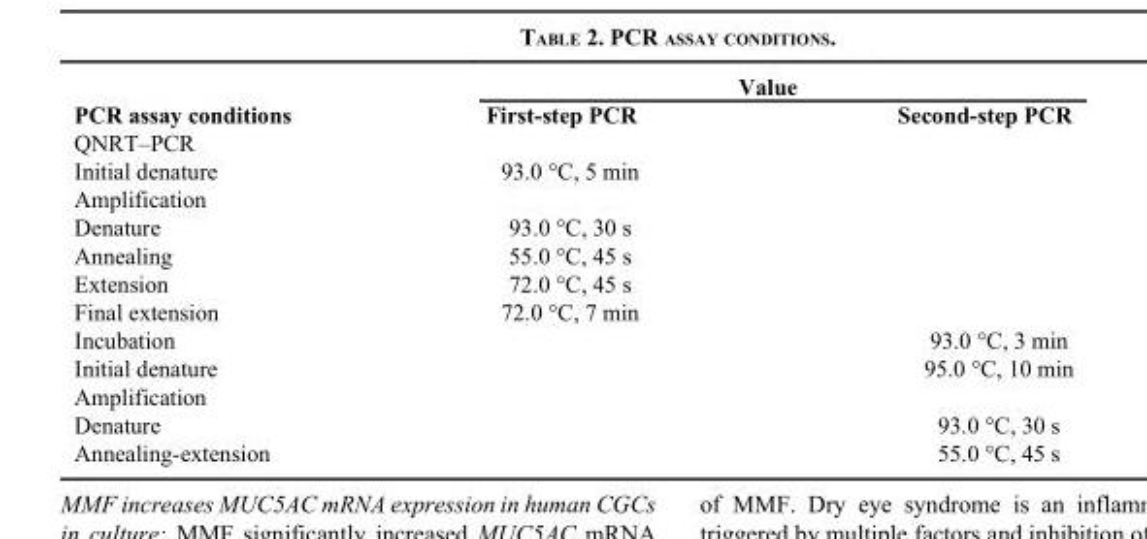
<table><thead><tr><td rowspan="2">PCR assay conditions</td><td colspan="2">Value</td></tr><tr><td>First-step PCR</td><td>Second-step PCR</td></tr></thead><tbody><tr><td colspan="3">QNRT–PCR</td></tr><tr><td>Initial denature</td><td>93.0 °C, 5 min</td><td></td></tr><tr><td colspan="3">Amplification</td></tr><tr><td>Denature</td><td>93.0 °C, 30 s</td><td></td></tr><tr><td>Annealing</td><td>55.0 °C, 45 s</td><td></td></tr><tr><td>Extension</td><td>72.0 °C, 45 s</td><td></td></tr><tr><td>Final extension</td><td>72.0 °C, 7 min</td><td></td></tr><tr><td>Incubation</td><td></td><td>93.0 °C, 3 min</td></tr><tr><td>Initial denature</td><td></td><td>95.0 °C, 10 min</td></tr><tr><td colspan="3">Amplification</td></tr><tr><td>Denature</td><td></td><td>93.0 °C, 30 s</td></tr><tr><td>Annealing-extension</td><td></td><td>55.0 °C, 45 s</td></tr></tbody></table>